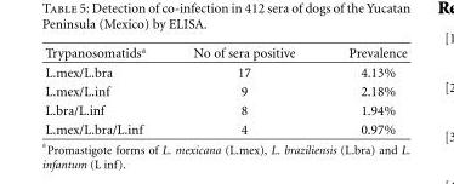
<table><thead><tr><td>Trypanosomatids<sup>a</sup></td><td>No of sera positive</td><td>Prevalence</td></tr></thead><tbody><tr><td>L.mex/L.bra</td><td>17</td><td>4.13%</td></tr><tr><td>L.mex/L.inf</td><td>9</td><td>2.18%</td></tr><tr><td>L.bra/L.inf</td><td>8</td><td>1.94%</td></tr><tr><td>L.mex/L.bra/L.inf</td><td>4</td><td>0.97%</td></tr></tbody></table>